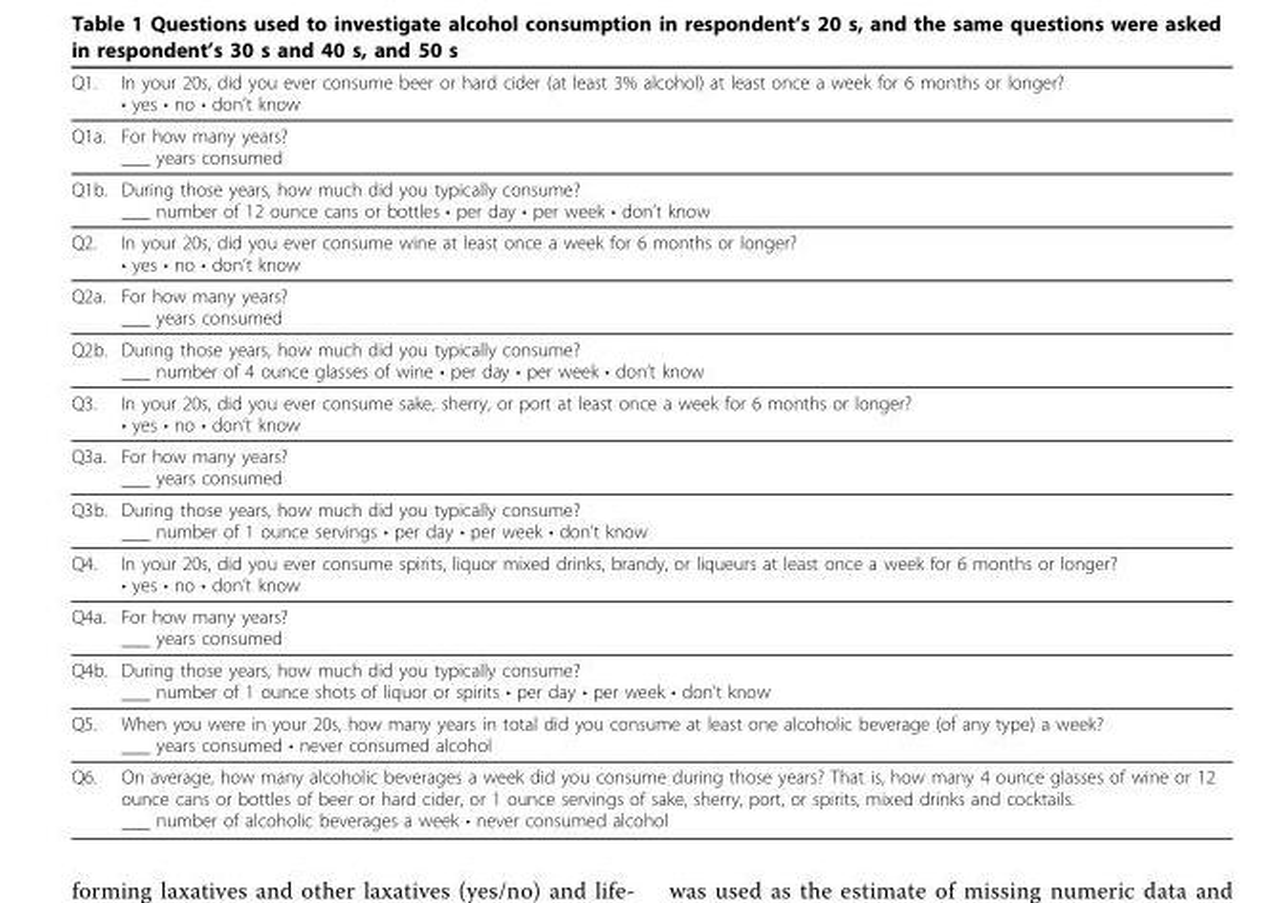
<table><thead><tr><td>Q1.</td><td>In your 20s, did you ever consume beer or hard cider (at least 3% alcohol) at least once a week for 6 months or longer? • yes • no • don’t know</td></tr></thead><tbody><tr><td>Q1a.</td><td>For how many years? ___ years consumed</td></tr><tr><td>Q1b.</td><td>During those years, how much did you typically consume? ___ number of 12 ounce cans or bottles • per day • per week • don’t know</td></tr><tr><td>Q2.</td><td>In your 20s, did you ever consume wine at least once a week for 6 months or longer? • yes • no • don’t know</td></tr><tr><td>Q2a.</td><td>For how many years? ___ years consumed</td></tr><tr><td>Q2b.</td><td>During those years, how much did you typically consume? ___ number of 4 ounce glasses of wine • per day • per week • don’t know</td></tr><tr><td>Q3.</td><td>In your 20s, did you ever consume sake, sherry, or port at least once a week for 6 months or longer? • yes • no • don’t know</td></tr><tr><td>Q3a.</td><td>For how many years? ___ years consumed</td></tr><tr><td>Q3b.</td><td>During those years, how much did you typically consume? ___ number of 1 ounce servings • per day • per week • don’t know</td></tr><tr><td>Q4.</td><td>In your 20s, did you ever consume spirits, liquor mixed drinks, brandy, or liqueurs at least once a week for 6 months or longer? • yes • no • don’t know</td></tr><tr><td>Q4a.</td><td>For how many years? ___ years consumed</td></tr><tr><td>Q4b.</td><td>During those years, how much did you typically consume? ___ number of 1 ounce shots of liquor or spirits • per day • per week • don’t know</td></tr><tr><td>Q5.</td><td>When you were in your 20s, how many years in total did you consume at least one alcoholic beverage (of any type) a week? ___ years consumed • never consumed alcohol</td></tr><tr><td>Q6.</td><td>On average, how many alcoholic beverages a week did you consume during those years? That is, how many 4 ounce glasses of wine or 12 ounce cans or bottles of beer or hard cider, or 1 ounce servings of sake, sherry, port, or spirits, mixed drinks and cocktails. ___ number of alcoholic beverages a week • never consumed alcohol</td></tr></tbody></table>